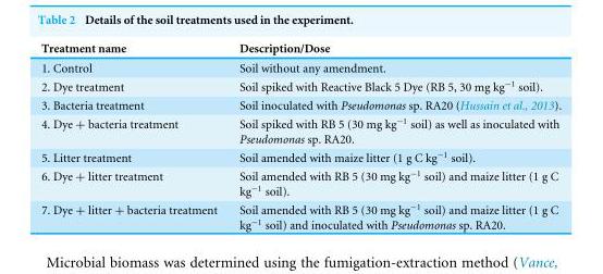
<table><thead><tr><td>Treatment name</td><td>Description/Dose</td></tr></thead><tbody><tr><td>1. Control</td><td>Soil without any amendment.</td></tr><tr><td>2. Dye treatment</td><td>Soil spiked with Reactive Black 5 Dye (RB 5, 30 mg kg<sup>−1</sup> soil).</td></tr><tr><td>3. Bacteria treatment</td><td>Soil inoculated with Pseudomonas sp. RA20 (Hussain et al., 2013).</td></tr><tr><td>4. Dye + bacteria treatment</td><td>Soil spiked with RB 5 (30 mg kg<sup>−1</sup> soil) as well as inoculated with Pseudomonas sp. RA20.</td></tr><tr><td>5. Litter treatment</td><td>Soil amended with maize litter (1 g C kg<sup>−1</sup> soil).</td></tr><tr><td>6. Dye + litter treatment</td><td>Soil amended with RB 5 (30 mg kg<sup>−1</sup> soil) and maize litter (1 g C kg<sup>−1</sup> soil).</td></tr><tr><td>7. Dye + litter + bacteria treatment</td><td>Soil amended with RB 5 (30 mg kg<sup>−1</sup> soil) and maize litter (1 g C kg<sup>−1</sup> soil) and inoculated with Pseudomonas sp. RA20.</td></tr></tbody></table>